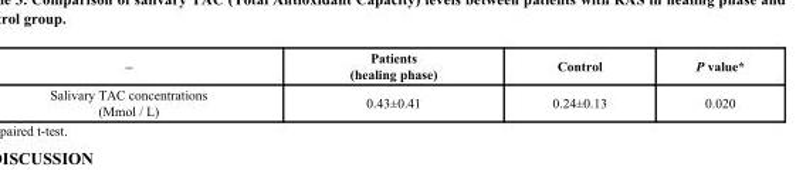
<table><thead><tr><td>–</td><td>Patients (healing phase)</td><td>Control</td><td>P value*</td></tr></thead><tbody><tr><td>Salivary TAC concentrations (Mmol / L)</td><td>0.43±0.41</td><td>0.24±0.13</td><td>0.020</td></tr></tbody></table>